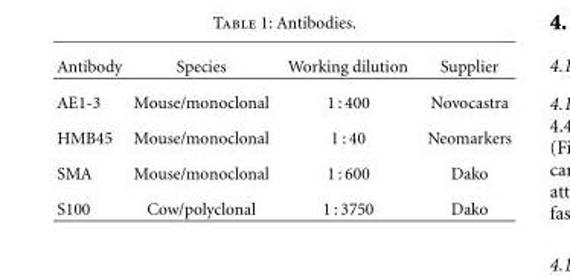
<table><thead><tr><td>Antibody</td><td>Species</td><td>Working dilution</td><td>Supplier</td></tr></thead><tbody><tr><td>AE1-3</td><td>Mouse/monoclonal</td><td>1 : 400</td><td>Novocastra</td></tr><tr><td>HMB45</td><td>Mouse/monoclonal</td><td>1 : 40</td><td>Neomarkers</td></tr><tr><td>SMA</td><td>Mouse/monoclonal</td><td>1 : 600</td><td>Dako</td></tr><tr><td>S100</td><td>Cow/polyclonal</td><td>1 : 3750</td><td>Dako</td></tr></tbody></table>